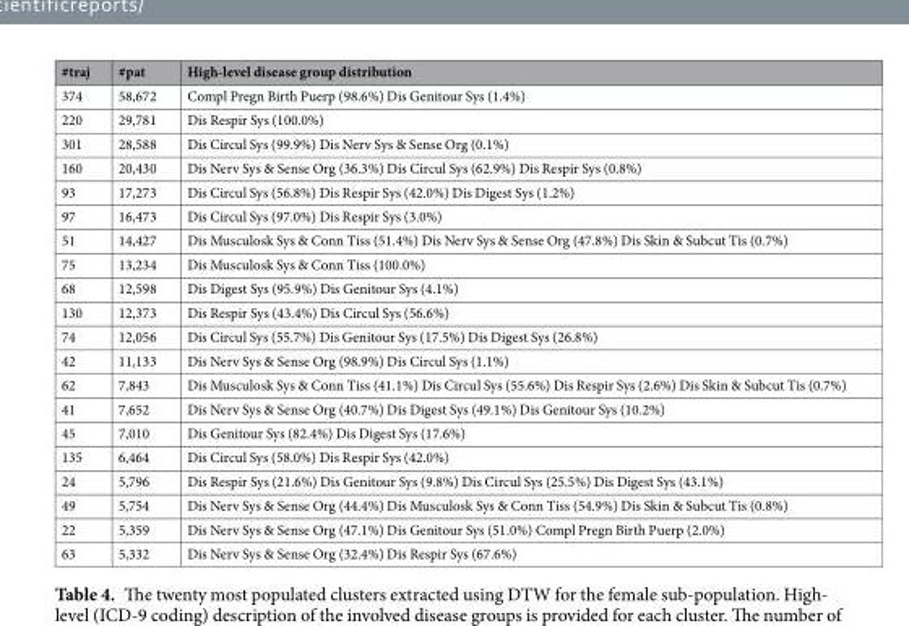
<table><thead><tr><td>#traj</td><td>#pat</td><td>High-level disease group distribution</td></tr></thead><tbody><tr><td>374</td><td>58,672</td><td>Compl Pregn Birth Puerp (98.6%) Dis Genitour Sys (1.4%)</td></tr><tr><td>220</td><td>29,781</td><td>Dis Respir Sys (100.0%)</td></tr><tr><td>301</td><td>28,588</td><td>Dis Circul Sys (99.9%) Dis Nerv Sys &amp; Sense Org (0.1%)</td></tr><tr><td>160</td><td>20,430</td><td>Dis Nerv Sys &amp; Sense Org (36.3%) Dis Circul Sys (62.9%) Dis Respir Sys (0.8%)</td></tr><tr><td>93</td><td>17,273</td><td>Dis Circul Sys (56.8%) Dis Respir Sys (42.0%) Dis Digest Sys (1.2%)</td></tr><tr><td>97</td><td>16,473</td><td>Dis Circul Sys (97.0%) Dis Respir Sys (3.0%)</td></tr><tr><td>51</td><td>14,427</td><td>Dis Musculosk Sys &amp; Conn Tiss (51.4%) Dis Nerv Sys &amp; Sense Org (47.8%) Dis Skin &amp; Subcut Tis (0.7%)</td></tr><tr><td>75</td><td>13,234</td><td>Dis Musculosk Sys &amp; Conn Tiss (100.0%)</td></tr><tr><td>68</td><td>12,598</td><td>Dis Digest Sys (95.9%) Dis Genitour Sys (4.1%)</td></tr><tr><td>130</td><td>12,373</td><td>Dis Respir Sys (43.4%) Dis Circul Sys (56.6%)</td></tr><tr><td>74</td><td>12,056</td><td>Dis Circul Sys (55.7%) Dis Genitour Sys (17.5%) Dis Digest Sys (26.8%)</td></tr><tr><td>42</td><td>11,133</td><td>Dis Nerv Sys &amp; Sense Org (98.9%) Dis Circul Sys (1.1%)</td></tr><tr><td>62</td><td>7,843</td><td>Dis Musculosk Sys &amp; Conn Tiss (41.1%) Dis Circul Sys (55.6%) Dis Respir Sys (2.6%) Dis Skin &amp; Subcut Tis (0.7%)</td></tr><tr><td>41</td><td>7,652</td><td>Dis Nerv Sys &amp; Sense Org (40.7%) Dis Digest Sys (49.1%) Dis Genitour Sys (10.2%)</td></tr><tr><td>45</td><td>7,010</td><td>Dis Genitour Sys (82.4%) Dis Digest Sys (17.6%)</td></tr><tr><td>135</td><td>6,464</td><td>Dis Circul Sys (58.0%) Dis Respir Sys (42.0%)</td></tr><tr><td>24</td><td>5,796</td><td>Dis Respir Sys (21.6%) Dis Genitour Sys (9.8%) Dis Circul Sys (25.5%) Dis Digest Sys (43.1%)</td></tr><tr><td>49</td><td>5,754</td><td>Dis Nerv Sys &amp; Sense Org (44.4%) Dis Musculosk Sys &amp; Conn Tiss (54.9%) Dis Skin &amp; Subcut Tis (0.8%)</td></tr><tr><td>22</td><td>5,359</td><td>Dis Nerv Sys &amp; Sense Org (47.1%) Dis Genitour Sys (51.0%) Compl Pregn Birth Puerp (2.0%)</td></tr><tr><td>63</td><td>5,332</td><td>Dis Nerv Sys &amp; Sense Org (32.4%) Dis Respir Sys (67.6%)</td></tr></tbody></table>